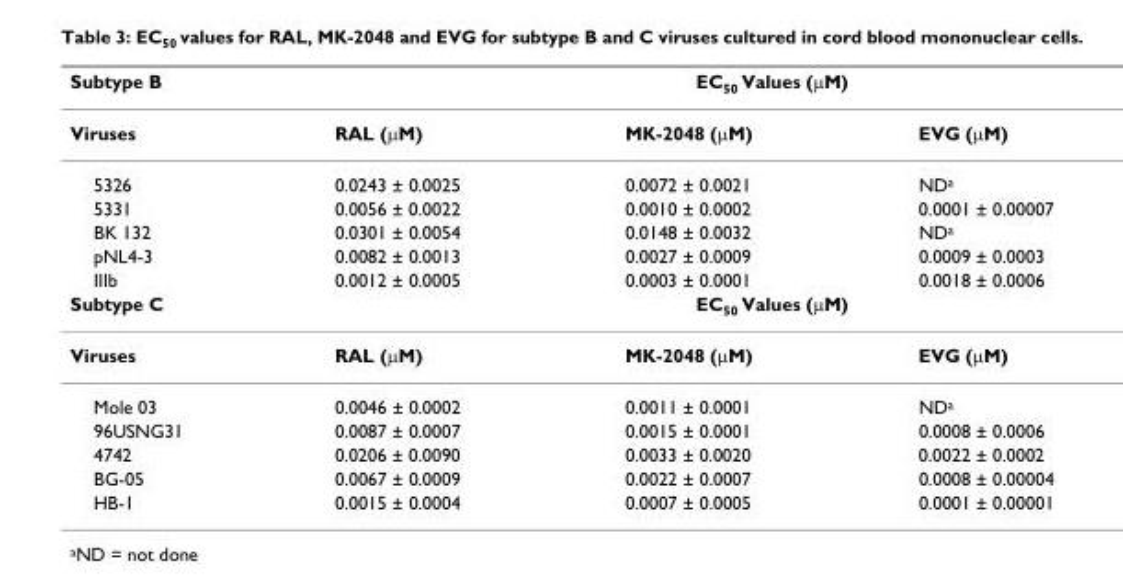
<table><thead><tr><td rowspan="2">Subtype B Viruses</td><td colspan="3">EC50 Values (μM)</td></tr><tr><td>RAL (μM)</td><td>MK-2048 (μM)</td><td>EVG (μM)</td></tr></thead><tbody><tr><td>5326</td><td>0.0243 ± 0.0025</td><td>0.0072 ± 0.0021</td><td>ND<sup>a</sup></td></tr><tr><td>5331</td><td>0.0056 ± 0.0022</td><td>0.0010 ± 0.0002</td><td>0.0001 ± 0.00007</td></tr><tr><td>BK 132</td><td>0.0301 ± 0.0054</td><td>0.0148 ± 0.0032</td><td>ND<sup>a</sup></td></tr><tr><td>pNL4-3</td><td>0.0082 ± 0.0013</td><td>0.0027 ± 0.0009</td><td>0.0009 ± 0.0003</td></tr><tr><td>IIIb</td><td>0.0012 ± 0.0005</td><td>0.0003 ± 0.0001</td><td>0.0018 ± 0.0006</td></tr><tr><td>Subtype C</td><td colspan="3">EC50 Values (μM)</td></tr><tr><td>Viruses</td><td>RAL (μM)</td><td>MK-2048 (μM)</td><td>EVG (μM)</td></tr><tr><td>Mole 03</td><td>0.0046 ± 0.0002</td><td>0.0011 ± 0.0001</td><td>ND<sup>a</sup></td></tr><tr><td>96USNG31</td><td>0.0087 ± 0.0007</td><td>0.0015 ± 0.0001</td><td>0.0008 ± 0.0006</td></tr><tr><td>4742</td><td>0.0206 ± 0.0090</td><td>0.0033 ± 0.0020</td><td>0.0022 ± 0.0002</td></tr><tr><td>BG-05</td><td>0.0067 ± 0.0009</td><td>0.0022 ± 0.0007</td><td>0.0008 ± 0.00004</td></tr><tr><td>HB-1</td><td>0.0015 ± 0.0004</td><td>0.0007 ± 0.0005</td><td>0.0001 ± 0.00001</td></tr></tbody></table>